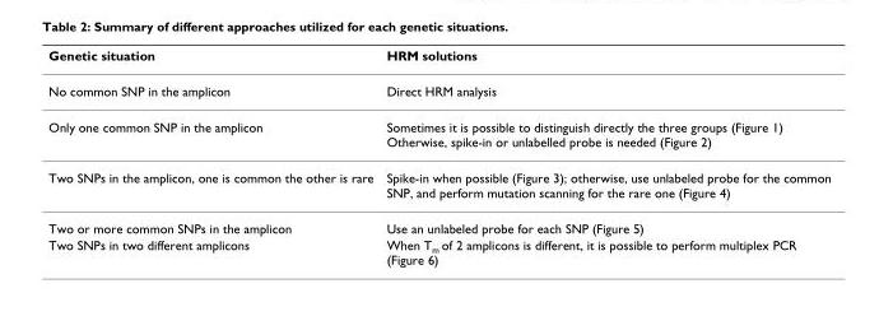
<table><thead><tr><td>Genetic situation</td><td>HRM solutions</td></tr></thead><tbody><tr><td>No common SNP in the amplicon</td><td>Direct HRM analysis</td></tr><tr><td>Only one common SNP in the amplicon</td><td>Sometimes it is possible to distinguish directly the three groups (Figure 1) Otherwise, spike-in or unlabelled probe is needed (Figure 2)</td></tr><tr><td>Two SNPs in the amplicon, one is common the other is rare</td><td>Spike-in when possible (Figure 3); otherwise, use unlabeled probe for the common SNP, and perform mutation scanning for the rare one (Figure 4)</td></tr><tr><td>Two or more common SNPs in the amplicon</td><td>Use an unlabeled probe for each SNP (Figure 5)</td></tr><tr><td>Two SNPs in two different amplicons</td><td>When T<sub>m</sub> of 2 amplicons is different, it is possible to perform multiplex PCR (Figure 6)</td></tr></tbody></table>